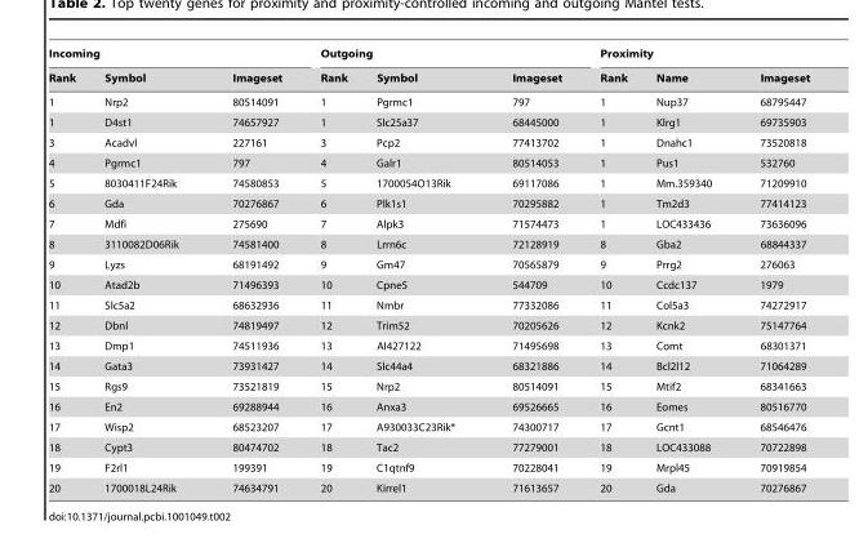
<table><thead><tr><td colspan="3">Incoming</td><td colspan="3">Outgoing</td><td colspan="3">Proximity</td></tr><tr><td>Rank</td><td>Symbol</td><td>Imageset</td><td>Rank</td><td>Symbol</td><td>Imageset</td><td>Rank</td><td>Name</td><td>Imageset</td></tr></thead><tbody><tr><td>1</td><td>Nrp2</td><td>80514091</td><td>1</td><td>Pgrmc1</td><td>797</td><td>1</td><td>Nup37</td><td>68795447</td></tr><tr><td>1</td><td>D4st1</td><td>74657927</td><td>1</td><td>Slc25a37</td><td>68445000</td><td>1</td><td>Klrg1</td><td>69735903</td></tr><tr><td>3</td><td>Acadvl</td><td>227161</td><td>3</td><td>Pcp2</td><td>77413702</td><td>1</td><td>Dnahc1</td><td>73520818</td></tr><tr><td>4</td><td>Pgrmc1</td><td>797</td><td>4</td><td>Galr1</td><td>80514053</td><td>1</td><td>Pus1</td><td>532760</td></tr><tr><td>5</td><td>8030411F24Rik</td><td>74580853</td><td>5</td><td>1700054O13Rik</td><td>69117086</td><td>1</td><td>Mm.359340</td><td>71209910</td></tr><tr><td>6</td><td>Gda</td><td>70276867</td><td>6</td><td>Plk1s1</td><td>70295882</td><td>1</td><td>Tm2d3</td><td>77414123</td></tr><tr><td>7</td><td>Mdfi</td><td>275690</td><td>7</td><td>Alpk3</td><td>71574473</td><td>1</td><td>LOC433436</td><td>73636096</td></tr><tr><td>8</td><td>3110082D06Rik</td><td>74581400</td><td>8</td><td>Lrrn6c</td><td>72128919</td><td>8</td><td>Gba2</td><td>68844337</td></tr><tr><td>9</td><td>Lyzs</td><td>68191492</td><td>9</td><td>Gm47</td><td>70565879</td><td>9</td><td>Prrg2</td><td>276063</td></tr><tr><td>10</td><td>Atad2b</td><td>71496393</td><td>10</td><td>Cpne5</td><td>544709</td><td>10</td><td>Ccdc137</td><td>1979</td></tr><tr><td>11</td><td>Slc5a2</td><td>68632936</td><td>11</td><td>Nmbr</td><td>77332086</td><td>11</td><td>Col5a3</td><td>74272917</td></tr><tr><td>12</td><td>Dbnl</td><td>74819497</td><td>12</td><td>Trim52</td><td>70205626</td><td>12</td><td>Kcnk2</td><td>75147764</td></tr><tr><td>13</td><td>Dmp1</td><td>74511936</td><td>13</td><td>AI427122</td><td>71495698</td><td>13</td><td>Comt</td><td>68301371</td></tr><tr><td>14</td><td>Gata3</td><td>73931427</td><td>14</td><td>Slc44a4</td><td>68321886</td><td>14</td><td>Bcl2l12</td><td>71064289</td></tr><tr><td>15</td><td>Rgs9</td><td>73521819</td><td>15</td><td>Nrp2</td><td>80514091</td><td>15</td><td>Mtif2</td><td>68341663</td></tr><tr><td>16</td><td>En2</td><td>69288944</td><td>16</td><td>Anxa3</td><td>69526665</td><td>16</td><td>Eomes</td><td>80516770</td></tr><tr><td>17</td><td>Wisp2</td><td>68523207</td><td>17</td><td>A930033C23Rik*</td><td>74300717</td><td>17</td><td>Gcnt1</td><td>68546476</td></tr><tr><td>18</td><td>Cypt3</td><td>80474702</td><td>18</td><td>Tac2</td><td>77279001</td><td>18</td><td>LOC433088</td><td>70722898</td></tr><tr><td>19</td><td>F2rl1</td><td>199391</td><td>19</td><td>C1qtnf9</td><td>70228041</td><td>19</td><td>Mrpl45</td><td>70919854</td></tr><tr><td>20</td><td>1700018L24Rik</td><td>74634791</td><td>20</td><td>Kirrel1</td><td>71613657</td><td>20</td><td>Gda</td><td>70276867</td></tr></tbody></table>